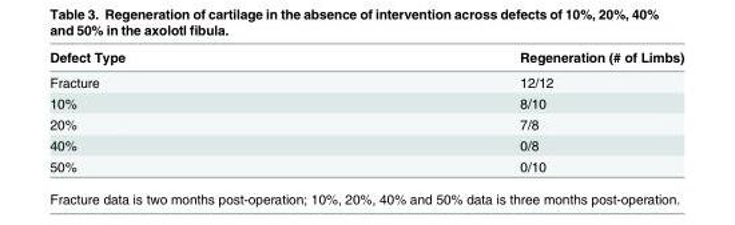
<table><thead><tr><td>Defect Type</td><td>Regeneration (# of Limbs)</td></tr></thead><tbody><tr><td>Fracture</td><td>12/12</td></tr><tr><td>10%</td><td>8/10</td></tr><tr><td>20%</td><td>7/8</td></tr><tr><td>40%</td><td>0/8</td></tr><tr><td>50%</td><td>0/10</td></tr></tbody></table>